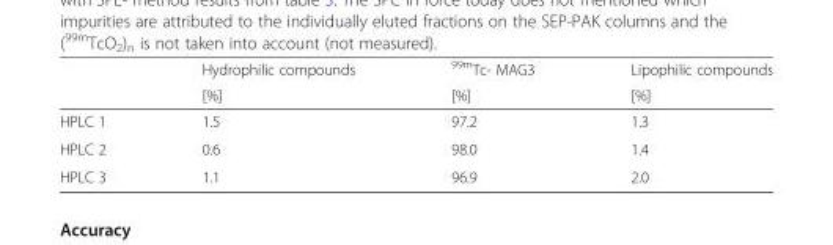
<table><thead><tr><td rowspan="2"></td><td rowspan="2">Hydrophilic compounds [%]</td><td rowspan="2"><sup>99m</sup>Tc- MAG3 [%]</td><td rowspan="2">Lipophilic compounds [%]</td></tr><tr></tr></thead><tbody><tr><td>HPLC 1</td><td>1.5</td><td>97.2</td><td>1.3</td></tr><tr><td>HPLC 2</td><td>0.6</td><td>98.0</td><td>1.4</td></tr><tr><td>HPLC 3</td><td>1.1</td><td>96.9</td><td>2.0</td></tr></tbody></table>